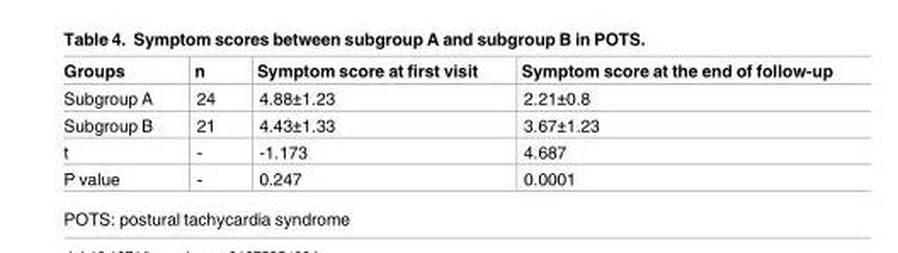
<table><thead><tr><td>Groups</td><td>n</td><td>Symptom score at first visit</td><td>Symptom score at the end of follow-up</td></tr></thead><tbody><tr><td>Subgroup A</td><td>24</td><td>4.88±1.23</td><td>2.21±0.8</td></tr><tr><td>Subgroup B</td><td>21</td><td>4.43±1.33</td><td>3.67±1.23</td></tr><tr><td>t</td><td>-</td><td>-1.173</td><td>4.687</td></tr><tr><td>P value</td><td>-</td><td>0.247</td><td>0.0001</td></tr></tbody></table>